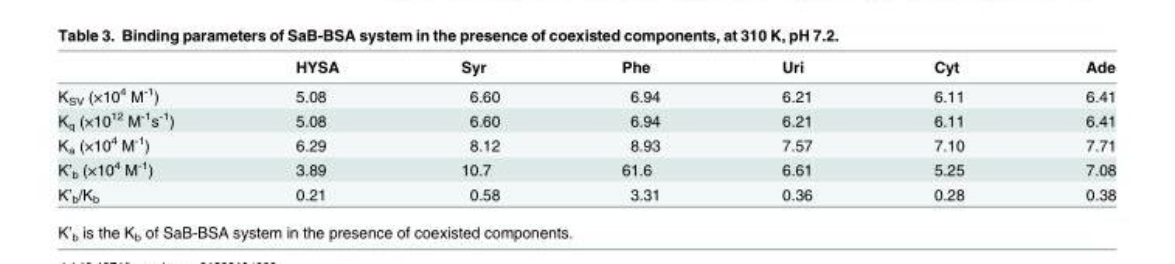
<table><thead><tr><td></td><td>HYSA</td><td>Syr</td><td>Phe</td><td>Uri</td><td>Cyt</td><td>Ade</td></tr></thead><tbody><tr><td>K<sub>SV</sub> (×10<sup>4</sup> M<sup>-1</sup>)</td><td>5.08</td><td>6.60</td><td>6.94</td><td>6.21</td><td>6.11</td><td>6.41</td></tr><tr><td>K<sub>q</sub> (×10<sup>12</sup> M<sup>-1</sup>s<sup>-1</sup>)</td><td>5.08</td><td>6.60</td><td>6.94</td><td>6.21</td><td>6.11</td><td>6.41</td></tr><tr><td>K<sub>a</sub> (×10<sup>4</sup> M<sup>-1</sup>)</td><td>6.29</td><td>8.12</td><td>8.93</td><td>7.57</td><td>7.10</td><td>7.71</td></tr><tr><td>K’<sub>b</sub> (×10<sup>4</sup> M<sup>-1</sup>)</td><td>3.89</td><td>10.7</td><td>61.6</td><td>6.61</td><td>5.25</td><td>7.08</td></tr><tr><td>K’<sub>b</sub>/K<sub>b</sub></td><td>0.21</td><td>0.58</td><td>3.31</td><td>0.36</td><td>0.28</td><td>0.38</td></tr></tbody></table>